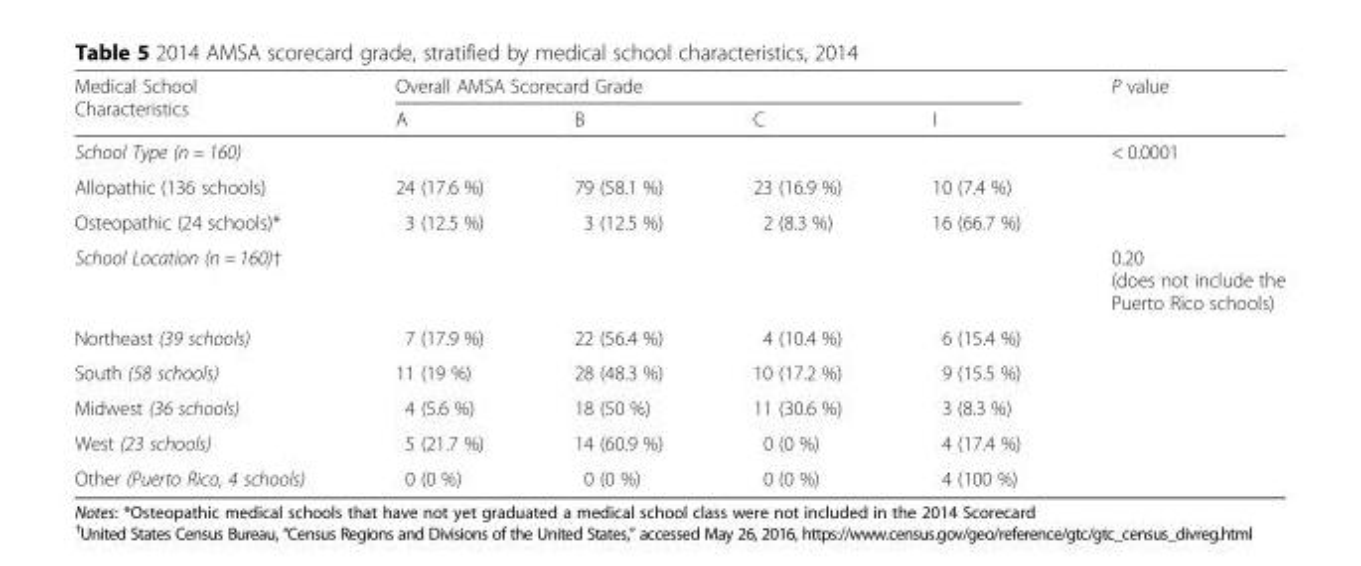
<table><thead><tr><td rowspan="2">Medical School Characteristics</td><td colspan="4">Overall AMSA Scorecard Grade</td><td rowspan="2">P value</td></tr><tr><td>A</td><td>B</td><td>C</td><td>I</td></tr></thead><tbody><tr><td>School Type (n = 160)</td><td></td><td></td><td></td><td></td><td>&lt; 0.0001</td></tr><tr><td>Allopathic (136 schools)</td><td>24 (17.6 %)</td><td>79 (58.1 %)</td><td>23 (16.9 %)</td><td>10 (7.4 %)</td><td></td></tr><tr><td>Osteopathic (24 schools)*</td><td>3 (12.5 %)</td><td>3 (12.5 %)</td><td>2 (8.3 %)</td><td>16 (66.7 %)</td><td></td></tr><tr><td>School Location (n = 160)†</td><td></td><td></td><td></td><td></td><td>0.20 (does not include the Puerto Rico schools)</td></tr><tr><td>Northeast (39 schools)</td><td>7 (17.9 %)</td><td>22 (56.4 %)</td><td>4 (10.4 %)</td><td>6 (15.4 %)</td><td></td></tr><tr><td>South (58 schools)</td><td>11 (19 %)</td><td>28 (48.3 %)</td><td>10 (17.2 %)</td><td>9 (15.5 %)</td><td></td></tr><tr><td>Midwest (36 schools)</td><td>4 (5.6 %)</td><td>18 (50 %)</td><td>11 (30.6 %)</td><td>3 (8.3 %)</td><td></td></tr><tr><td>West (23 schools)</td><td>5 (21.7 %)</td><td>14 (60.9 %)</td><td>0 (0 %)</td><td>4 (17.4 %)</td><td></td></tr><tr><td>Other (Puerto Rico, 4 schools)</td><td>0 (0 %)</td><td>0 (0 %)</td><td>0 (0 %)</td><td>4 (100 %)</td><td></td></tr></tbody></table>